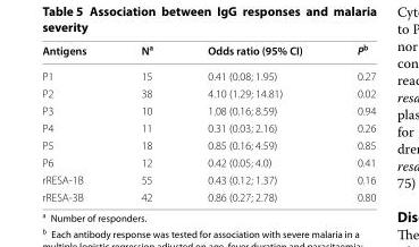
<table><thead><tr><td>Antigens</td><td>N<sup>a</sup></td><td>Odds ratio (95% CI)</td><td>P<sup>b</sup></td></tr></thead><tbody><tr><td>P1</td><td>15</td><td>0.41 (0.08; 1.95)</td><td>0.27</td></tr><tr><td>P2</td><td>38</td><td>4.10 (1.29; 14.81)</td><td>0.02</td></tr><tr><td>P3</td><td>10</td><td>1.08 (0.16; 8.59)</td><td>0.94</td></tr><tr><td>P4</td><td>11</td><td>0.31 (0.03; 2.16)</td><td>0.26</td></tr><tr><td>P5</td><td>18</td><td>0.85 (0.16; 4.59)</td><td>0.85</td></tr><tr><td>P6</td><td>12</td><td>0.42 (0.05; 4.0)</td><td>0.41</td></tr><tr><td>rRESA‑1B</td><td>55</td><td>0.43 (0.12; 1.37)</td><td>0.16</td></tr><tr><td>rRESA‑3B</td><td>42</td><td>0.86 (0.27; 2.78)</td><td>0.80</td></tr></tbody></table>